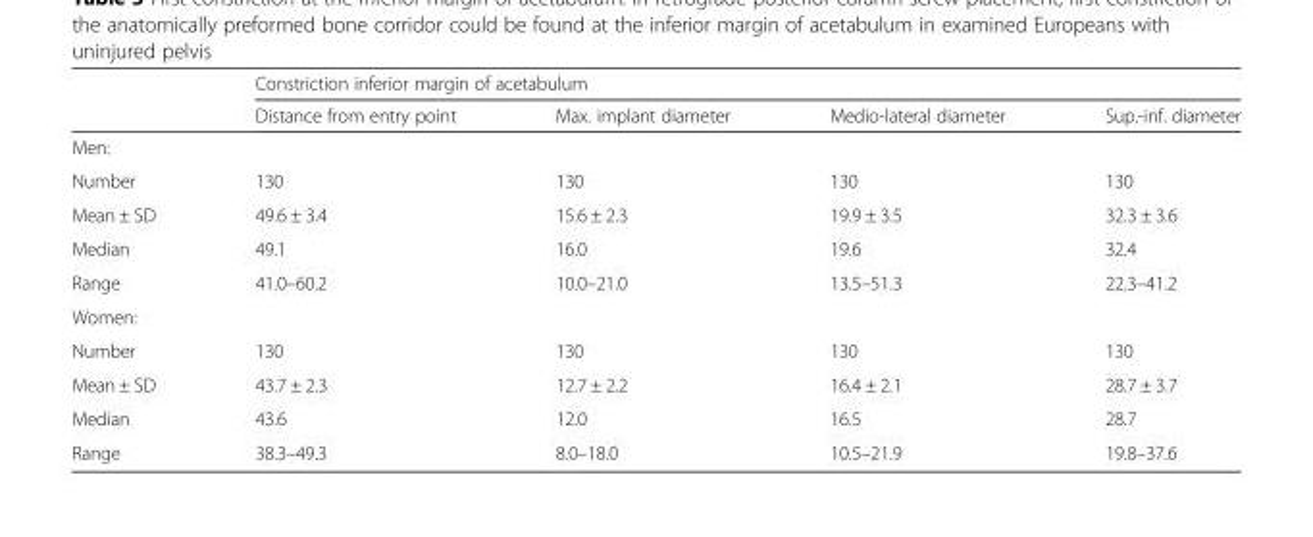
<table><thead><tr><td rowspan="2"></td><td colspan="4">Constriction inferior margin of acetabulum</td></tr><tr><td>Distance from entry point</td><td>Max. implant diameter</td><td>Medio-lateral diameter</td><td>Sup.-inf. diameter</td></tr></thead><tbody><tr><td colspan="5">Men:</td></tr><tr><td>Number</td><td>130</td><td>130</td><td>130</td><td>130</td></tr><tr><td>Mean ± SD</td><td>49.6 ± 3.4</td><td>15.6 ± 2.3</td><td>19.9 ± 3.5</td><td>32.3 ± 3.6</td></tr><tr><td>Median</td><td>49.1</td><td>16.0</td><td>19.6</td><td>32.4</td></tr><tr><td>Range</td><td>41.0–60.2</td><td>10.0–21.0</td><td>13.5–51.3</td><td>22.3–41.2</td></tr><tr><td colspan="5">Women:</td></tr><tr><td>Number</td><td>130</td><td>130</td><td>130</td><td>130</td></tr><tr><td>Mean ± SD</td><td>43.7 ± 2.3</td><td>12.7 ± 2.2</td><td>16.4 ± 2.1</td><td>28.7 ± 3.7</td></tr><tr><td>Median</td><td>43.6</td><td>12.0</td><td>16.5</td><td>28.7</td></tr><tr><td>Range</td><td>38.3–49.3</td><td>8.0–18.0</td><td>10.5–21.9</td><td>19.8–37.6</td></tr></tbody></table>